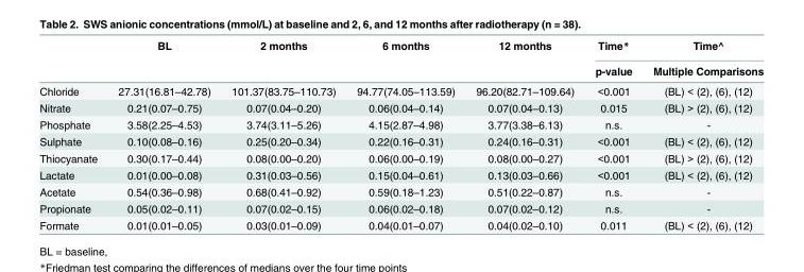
<table><thead><tr><td rowspan="2"></td><td rowspan="2">BL</td><td rowspan="2">2 months</td><td rowspan="2">6 months</td><td rowspan="2">12 months</td><td rowspan="2">Time* p-value</td><td rowspan="2">Time^ Multiple Comparisons</td></tr><tr></tr></thead><tbody><tr><td>Chloride</td><td>27.31(16.81–42.78)</td><td>101.37(83.75–110.73)</td><td>94.77(74.05–113.59)</td><td>96.20(82.71–109.64)</td><td>&lt;0.001</td><td>(BL) &lt; (2), (6), (12)</td></tr><tr><td>Nitrate</td><td>0.21(0.07–0.75)</td><td>0.07(0.04–0.20)</td><td>0.06(0.04–0.14)</td><td>0.07(0.04–0.13)</td><td>0.015</td><td>(BL) &gt; (2), (6), (12)</td></tr><tr><td>Phosphate</td><td>3.58(2.25–4.53)</td><td>3.74(3.11–5.26)</td><td>4.15(2.87–4.98)</td><td>3.77(3.38–6.13)</td><td>n.s.</td><td>-</td></tr><tr><td>Sulphate</td><td>0.10(0.08–0.16)</td><td>0.25(0.20–0.34)</td><td>0.22(0.16–0.31)</td><td>0.24(0.16–0.31)</td><td>&lt;0.001</td><td>(BL) &lt; (2), (6), (12)</td></tr><tr><td>Thiocyanate</td><td>0.30(0.17–0.44)</td><td>0.08(0.00–0.20)</td><td>0.06(0.00–0.19)</td><td>0.08(0.00–0.27)</td><td>&lt;0.001</td><td>(BL) &gt; (2), (6), (12)</td></tr><tr><td>Lactate</td><td>0.01(0.00–0.08)</td><td>0.31(0.03–0.56)</td><td>0.15(0.04–0.61)</td><td>0.13(0.03–0.66)</td><td>&lt;0.001</td><td>(BL) &lt; (2), (6), (12)</td></tr><tr><td>Acetate</td><td>0.54(0.36–0.98)</td><td>0.68(0.41–0.92)</td><td>0.59(0.18–1.23)</td><td>0.51(0.22–0.87)</td><td>n.s.</td><td>-</td></tr><tr><td>Propionate</td><td>0.05(0.02–0.11)</td><td>0.07(0.02–0.15)</td><td>0.06(0.02–0.18)</td><td>0.07(0.02–0.12)</td><td>n.s.</td><td>-</td></tr><tr><td>Formate</td><td>0.01(0.01–0.05)</td><td>0.03(0.01–0.09)</td><td>0.04(0.01–0.07)</td><td>0.04(0.02–0.10)</td><td>0.011</td><td>(BL) &lt; (2), (6), (12)</td></tr></tbody></table>